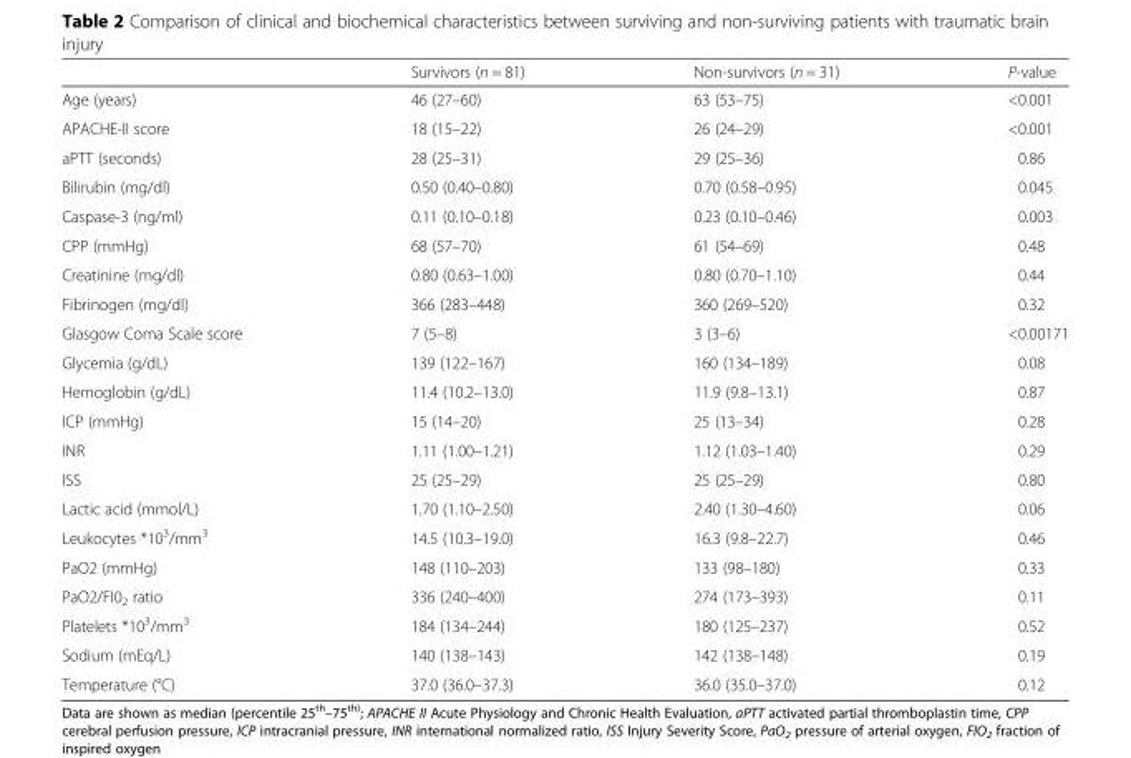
<table><thead><tr><td></td><td>Survivors (n = 81)</td><td>Non-survivors (n = 31)</td><td>P-value</td></tr></thead><tbody><tr><td>Age (years)</td><td>46 (27–60)</td><td>63 (53–75)</td><td>&lt;0.001</td></tr><tr><td>APACHE-II score</td><td>18 (15–22)</td><td>26 (24–29)</td><td>&lt;0.001</td></tr><tr><td>aPTT (seconds)</td><td>28 (25–31)</td><td>29 (25–36)</td><td>0.86</td></tr><tr><td>Bilirubin (mg/dl)</td><td>0.50 (0.40–0.80)</td><td>0.70 (0.58–0.95)</td><td>0.045</td></tr><tr><td>Caspase-3 (ng/ml)</td><td>0.11 (0.10–0.18)</td><td>0.23 (0.10–0.46)</td><td>0.003</td></tr><tr><td>CPP (mmHg)</td><td>68 (57–70)</td><td>61 (54–69)</td><td>0.48</td></tr><tr><td>Creatinine (mg/dl)</td><td>0.80 (0.63–1.00)</td><td>0.80 (0.70–1.10)</td><td>0.44</td></tr><tr><td>Fibrinogen (mg/dl)</td><td>366 (283–448)</td><td>360 (269–520)</td><td>0.32</td></tr><tr><td>Glasgow Coma Scale score</td><td>7 (5–8)</td><td>3 (3–6)</td><td>&lt;0.00171</td></tr><tr><td>Glycemia (g/dL)</td><td>139 (122–167)</td><td>160 (134–189)</td><td>0.08</td></tr><tr><td>Hemoglobin (g/dL)</td><td>11.4 (10.2–13.0)</td><td>11.9 (9.8–13.1)</td><td>0.87</td></tr><tr><td>ICP (mmHg)</td><td>15 (14–20)</td><td>25 (13–34)</td><td>0.28</td></tr><tr><td>INR</td><td>1.11 (1.00–1.21)</td><td>1.12 (1.03–1.40)</td><td>0.29</td></tr><tr><td>ISS</td><td>25 (25–29)</td><td>25 (25–29)</td><td>0.80</td></tr><tr><td>Lactic acid (mmol/L)</td><td>1.70 (1.10–2.50)</td><td>2.40 (1.30–4.60)</td><td>0.06</td></tr><tr><td>Leukocytes *10<sup>3</sup>/mm<sup>3</sup></td><td>14.5 (10.3–19.0)</td><td>16.3 (9.8–22.7)</td><td>0.46</td></tr><tr><td>PaO2 (mmHg)</td><td>148 (110–203)</td><td>133 (98–180)</td><td>0.33</td></tr><tr><td>PaO2/FI0<sub>2</sub> ratio</td><td>336 (240–400)</td><td>274 (173–393)</td><td>0.11</td></tr><tr><td>Platelets *10<sup>3</sup>/mm<sup>3</sup></td><td>184 (134–244)</td><td>180 (125–237)</td><td>0.52</td></tr><tr><td>Sodium (mEq/L)</td><td>140 (138–143)</td><td>142 (138–148)</td><td>0.19</td></tr><tr><td>Temperature (°C)</td><td>37.0 (36.0–37.3)</td><td>36.0 (35.0–37.0)</td><td>0.12</td></tr></tbody></table>